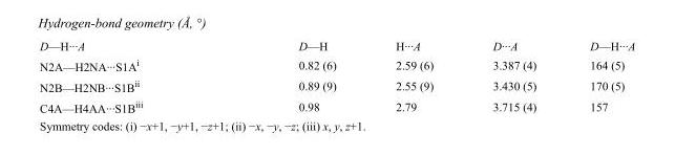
<table><tbody><tr><td>D—H···A</td><td>D—H</td><td>H···A</td><td>D···A</td><td>D—H···A</td></tr><tr><td>N2A—H2NA···S1A<sup>i</sup></td><td>0.82 (6)</td><td>2.59 (6)</td><td>3.387 (4)</td><td>164 (5)</td></tr><tr><td>N2B—H2NB···S1B<sup>ii</sup></td><td>0.89 (9)</td><td>2.55 (9)</td><td>3.430 (5)</td><td>170 (5)</td></tr><tr><td>C4A—H4AA···S1B<sup>iii</sup></td><td>0.98</td><td>2.79</td><td>3.715 (4)</td><td>157</td></tr></tbody></table>